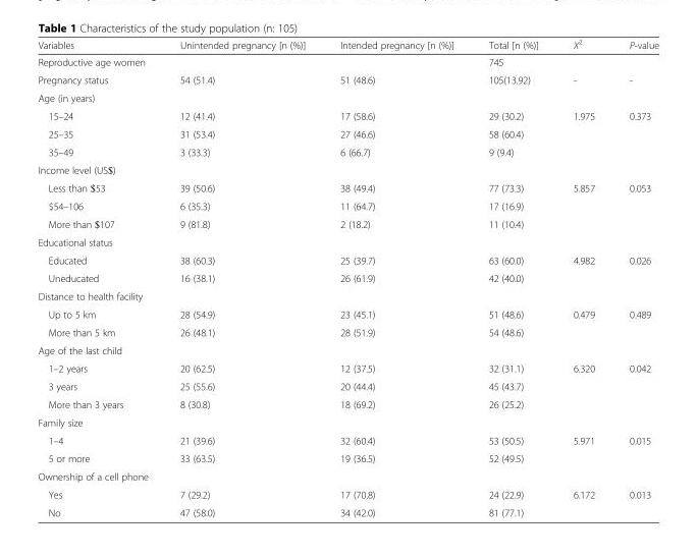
<table><thead><tr><td>Variables</td><td>Unintended pregnancy [n (%)]</td><td>Intended pregnancy [n (%)]</td><td>Total [n (%)]</td><td>X<sup>2</sup></td><td>P-value</td></tr></thead><tbody><tr><td>Reproductive age women</td><td></td><td></td><td>745</td><td></td><td></td></tr><tr><td>Pregnancy status</td><td>54 (51.4)</td><td>51 (48.6)</td><td>105(13.92)</td><td>-</td><td>-</td></tr><tr><td colspan="6">Age (in years)</td></tr><tr><td>15–24</td><td>12 (41.4)</td><td>17 (58.6)</td><td>29 (30.2)</td><td>1.975</td><td>0.373</td></tr><tr><td>25–35</td><td>31 (53.4)</td><td>27 (46.6)</td><td>58 (60.4)</td><td></td><td></td></tr><tr><td>35–49</td><td>3 (33.3)</td><td>6 (66.7)</td><td>9 (9.4)</td><td></td><td></td></tr><tr><td colspan="6">Income level (US$)</td></tr><tr><td>Less than $53</td><td>39 (50.6)</td><td>38 (49.4)</td><td>77 (73.3)</td><td>5.857</td><td>0.053</td></tr><tr><td>$54–106</td><td>6 (35.3)</td><td>11 (64.7)</td><td>17 (16.9)</td><td></td><td></td></tr><tr><td>More than $107</td><td>9 (81.8)</td><td>2 (18.2)</td><td>11 (10.4)</td><td></td><td></td></tr><tr><td colspan="6">Educational status</td></tr><tr><td>Educated</td><td>38 (60.3)</td><td>25 (39.7)</td><td>63 (60.0)</td><td>4.982</td><td>0.026</td></tr><tr><td>Uneducated</td><td>16 (38.1)</td><td>26 (61.9)</td><td>42 (40.0)</td><td></td><td></td></tr><tr><td colspan="6">Distance to health facility</td></tr><tr><td>Up to 5 km</td><td>28 (54.9)</td><td>23 (45.1)</td><td>51 (48.6)</td><td>0.479</td><td>0.489</td></tr><tr><td>More than 5 km</td><td>26 (48.1)</td><td>28 (51.9)</td><td>54 (48.6)</td><td></td><td></td></tr><tr><td colspan="6">Age of the last child</td></tr><tr><td>1–2 years</td><td>20 (62.5)</td><td>12 (37.5)</td><td>32 (31.1)</td><td>6.320</td><td>0.042</td></tr><tr><td>3 years</td><td>25 (55.6)</td><td>20 (44.4)</td><td>45 (43.7)</td><td></td><td></td></tr><tr><td>More than 3 years</td><td>8 (30.8)</td><td>18 (69.2)</td><td>26 (25.2)</td><td></td><td></td></tr><tr><td colspan="6">Family size</td></tr><tr><td>1–4</td><td>21 (39.6)</td><td>32 (60.4)</td><td>53 (50.5)</td><td>5.971</td><td>0.015</td></tr><tr><td>5 or more</td><td>33 (63.5)</td><td>19 (36.5)</td><td>52 (49.5)</td><td></td><td></td></tr><tr><td colspan="6">Ownership of a cell phone</td></tr><tr><td>Yes</td><td>7 (29.2)</td><td>17 (70.8)</td><td>24 (22.9)</td><td>6.172</td><td>0.013</td></tr><tr><td>No</td><td>47 (58.0)</td><td>34 (42.0)</td><td>81 (77.1)</td><td></td><td></td></tr></tbody></table>